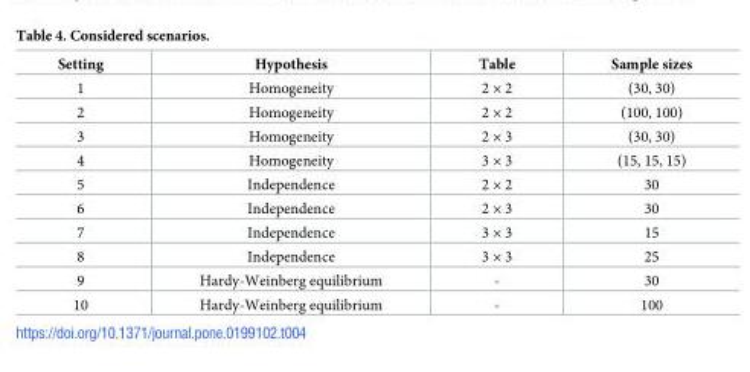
<table><thead><tr><td>Setting</td><td>Hypothesis</td><td>Table</td><td>Sample sizes</td></tr></thead><tbody><tr><td>1</td><td>Homogeneity</td><td>2 × 2</td><td>(30, 30)</td></tr><tr><td>2</td><td>Homogeneity</td><td>2 × 2</td><td>(100, 100)</td></tr><tr><td>3</td><td>Homogeneity</td><td>2 × 3</td><td>(30, 30)</td></tr><tr><td>4</td><td>Homogeneity</td><td>3 × 3</td><td>(15, 15, 15)</td></tr><tr><td>5</td><td>Independence</td><td>2 × 2</td><td>30</td></tr><tr><td>6</td><td>Independence</td><td>2 × 3</td><td>30</td></tr><tr><td>7</td><td>Independence</td><td>3 × 3</td><td>15</td></tr><tr><td>8</td><td>Independence</td><td>3 × 3</td><td>25</td></tr><tr><td>9</td><td>Hardy-Weinberg equilibrium</td><td>-</td><td>30</td></tr><tr><td>10</td><td>Hardy-Weinberg equilibrium</td><td>-</td><td>100</td></tr></tbody></table>